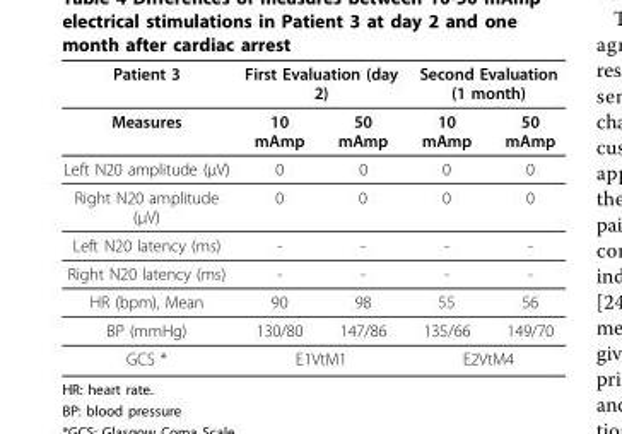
<table><thead><tr><td rowspan="2">Patient 3 Measures</td><td colspan="2">First Evaluation (day 2)</td><td colspan="2">Second Evaluation (1 month)</td></tr><tr><td>10 mAmp</td><td>50 mAmp</td><td>10 mAmp</td><td>50 mAmp</td></tr></thead><tbody><tr><td>Left N20 amplitude (μV)</td><td>0</td><td>0</td><td>0</td><td>0</td></tr><tr><td>Right N20 amplitude (μV)</td><td>0</td><td>0</td><td>0</td><td>0</td></tr><tr><td>Left N20 latency (ms)</td><td>-</td><td>-</td><td>-</td><td>-</td></tr><tr><td>Right N20 latency (ms)</td><td>-</td><td>-</td><td>-</td><td>-</td></tr><tr><td>HR (bpm), Mean</td><td>90</td><td>98</td><td>55</td><td>56</td></tr><tr><td>BP (mmHg)</td><td>130/80</td><td>147/86</td><td>135/66</td><td>149/70</td></tr><tr><td>GCS *</td><td colspan="2">E1VtM1</td><td colspan="2">E2VtM4</td></tr></tbody></table>